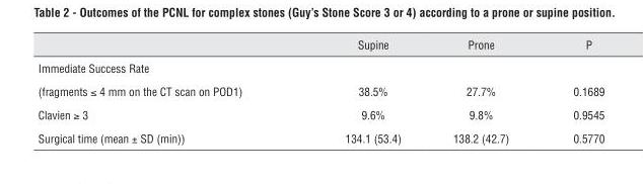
<table><thead><tr><td></td><td>Supine</td><td>Prone</td><td>P</td></tr></thead><tbody><tr><td colspan="4">Immediate Success Rate</td></tr><tr><td>(fragments ≤ 4 mm on the CT scan on POD1)</td><td>38.5%</td><td>27.7%</td><td>0.1689</td></tr><tr><td>Clavien ≥ 3</td><td>9.6%</td><td>9.8%</td><td>0.9545</td></tr><tr><td>Surgical time (mean ± SD (min))</td><td>134.1 (53.4)</td><td>138.2 (42.7)</td><td>0.5770</td></tr></tbody></table>